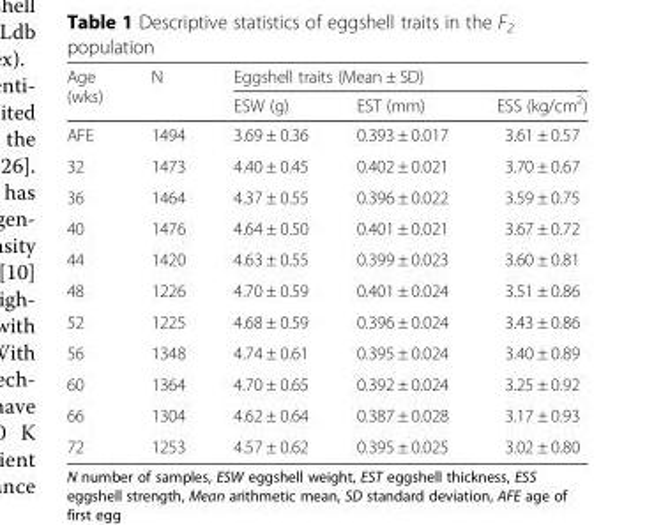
<table><thead><tr><td rowspan="2">Age (wks)</td><td rowspan="2">N</td><td colspan="3">Eggshell traits (Mean ± SD)</td></tr><tr><td>ESW (g)</td><td>EST (mm)</td><td>ESS (kg/cm<sup>2</sup>)</td></tr></thead><tbody><tr><td>AFE</td><td>1494</td><td>3.69 ± 0.36</td><td>0.393 ± 0.017</td><td>3.61 ± 0.57</td></tr><tr><td>32</td><td>1473</td><td>4.40 ± 0.45</td><td>0.402 ± 0.021</td><td>3.70 ± 0.67</td></tr><tr><td>36</td><td>1464</td><td>4.37 ± 0.55</td><td>0.396 ± 0.022</td><td>3.59 ± 0.75</td></tr><tr><td>40</td><td>1476</td><td>4.64 ± 0.50</td><td>0.401 ± 0.021</td><td>3.67 ± 0.72</td></tr><tr><td>44</td><td>1420</td><td>4.63 ± 0.55</td><td>0.399 ± 0.023</td><td>3.60 ± 0.81</td></tr><tr><td>48</td><td>1226</td><td>4.70 ± 0.59</td><td>0.401 ± 0.024</td><td>3.51 ± 0.86</td></tr><tr><td>52</td><td>1225</td><td>4.68 ± 0.59</td><td>0.396 ± 0.024</td><td>3.43 ± 0.86</td></tr><tr><td>56</td><td>1348</td><td>4.74 ± 0.61</td><td>0.395 ± 0.024</td><td>3.40 ± 0.89</td></tr><tr><td>60</td><td>1364</td><td>4.70 ± 0.65</td><td>0.392 ± 0.024</td><td>3.25 ± 0.92</td></tr><tr><td>66</td><td>1304</td><td>4.62 ± 0.64</td><td>0.387 ± 0.028</td><td>3.17 ± 0.93</td></tr><tr><td>72</td><td>1253</td><td>4.57 ± 0.62</td><td>0.395 ± 0.025</td><td>3.02 ± 0.80</td></tr></tbody></table>